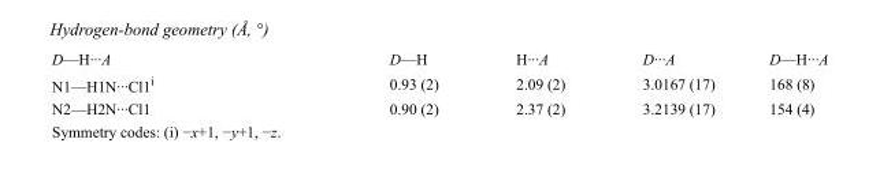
<table><tbody><tr><td>D—H···A</td><td>D—H</td><td>H···A</td><td>D···A</td><td>D—H···A</td></tr><tr><td>N1—H1N···Cl1<sup>i</sup></td><td>0.93 (2)</td><td>2.09 (2)</td><td>3.0167 (17)</td><td>168 (8)</td></tr><tr><td>N2—H2N···Cl1</td><td>0.90 (2)</td><td>2.37 (2)</td><td>3.2139 (17)</td><td>154 (4)</td></tr></tbody></table>